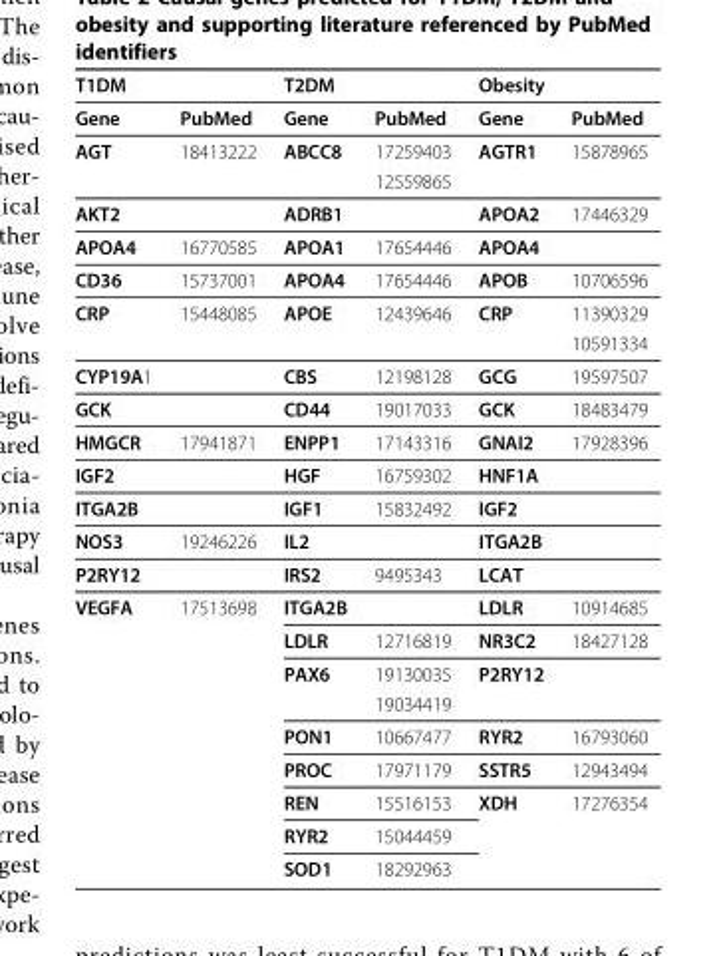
<table><thead><tr><td colspan="2">T1DM</td><td colspan="2">T2DM</td><td colspan="2">Obesity</td></tr><tr><td>Gene</td><td>PubMed</td><td>Gene</td><td>PubMed</td><td>Gene</td><td>PubMed</td></tr></thead><tbody><tr><td rowspan="2">AGT</td><td>18413222</td><td>ABCC8</td><td>17259403</td><td>AGTR1</td><td>15878965</td></tr><tr><td></td><td></td><td>12559865</td><td></td><td></td></tr><tr><td>AKT2</td><td></td><td>ADRB1</td><td></td><td>APOA2</td><td>17446329</td></tr><tr><td>APOA4</td><td>16770585</td><td>APOA1</td><td>17654446</td><td>APOA4</td><td></td></tr><tr><td>CD36</td><td>15737001</td><td>APOA4</td><td>17654446</td><td>APOB</td><td>10706596</td></tr><tr><td rowspan="2">CRP</td><td>15448085</td><td>APOE</td><td>12439646</td><td>CRP</td><td>11390329</td></tr><tr><td></td><td></td><td></td><td></td><td>10591334</td></tr><tr><td>CYP19A1</td><td></td><td>CBS</td><td>12198128</td><td>GCG</td><td>19597507</td></tr><tr><td>GCK</td><td></td><td>CD44</td><td>19017033</td><td>GCK</td><td>18483479</td></tr><tr><td>HMGCR</td><td>17941871</td><td>ENPP1</td><td>17143316</td><td>GNAI2</td><td>17928396</td></tr><tr><td>IGF2</td><td></td><td>HGF</td><td>16759302</td><td>HNF1A</td><td></td></tr><tr><td>ITGA2B</td><td></td><td>IGF1</td><td>15832492</td><td>IGF2</td><td></td></tr><tr><td>NOS3</td><td>19246226</td><td>IL2</td><td></td><td>ITGA2B</td><td></td></tr><tr><td>P2RY12</td><td></td><td>IRS2</td><td>9495343</td><td>LCAT</td><td></td></tr><tr><td rowspan="9">VEGFA</td><td>17513698</td><td>ITGA2B</td><td></td><td>LDLR</td><td>10914685</td></tr><tr><td></td><td>LDLR</td><td>12716819</td><td>NR3C2</td><td>18427128</td></tr><tr><td></td><td>PAX6</td><td>19130035</td><td>P2RY12</td><td></td></tr><tr><td></td><td></td><td>19034419</td><td></td><td></td></tr><tr><td></td><td>PON1</td><td>10667477</td><td>RYR2</td><td>16793060</td></tr><tr><td></td><td>PROC</td><td>17971179</td><td>SSTR5</td><td>12943494</td></tr><tr><td></td><td>REN</td><td>15516153</td><td>XDH</td><td>17276354</td></tr><tr><td></td><td>RYR2</td><td>15044459</td><td></td><td></td></tr><tr><td></td><td>SOD1</td><td>18292963</td><td></td><td></td></tr></tbody></table>